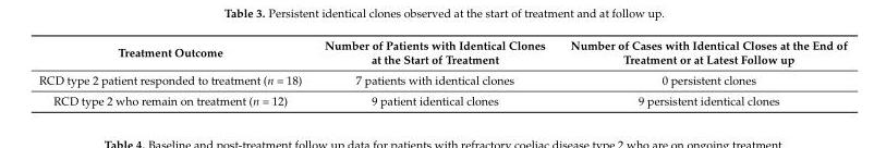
<table><thead><tr><td>Treatment Outcome</td><td>Number of Patients with Identical Clones at the Start of Treatment</td><td>Number of Cases with Identical Closes at the End of Treatment or at Latest Follow up</td></tr></thead><tbody><tr><td>RCD type 2 patient responded to treatment (n = 18)</td><td>7 patients with identical clones</td><td>0 persistent clones</td></tr><tr><td>RCD type 2 who remain on treatment (n = 12)</td><td>9 patient identical clones</td><td>9 persistent identical clones</td></tr></tbody></table>